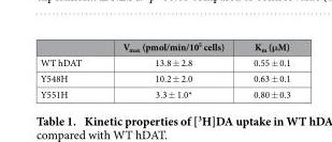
<table><thead><tr><td></td><td>V<sub>max</sub> (pmol/min/10<sup>5</sup> cells)</td><td>K<sub>m</sub> (μM)</td></tr></thead><tbody><tr><td>WT hDAT</td><td>13.8 ± 2.8</td><td>0.55 ± 0.1</td></tr><tr><td>Y548H</td><td>10.2 ± 2.0</td><td>0.63 ± 0.1</td></tr><tr><td>Y551H</td><td>3.3 ± 1.0*</td><td>0.80 ± 0.3</td></tr></tbody></table>